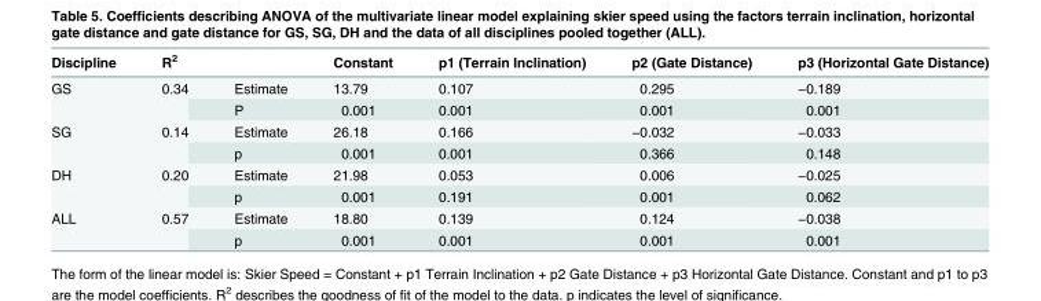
<table><thead><tr><td>Discipline</td><td>R<sup>2</sup></td><td></td><td>Constant</td><td>p1 (Terrain Inclination)</td><td>p2 (Gate Distance)</td><td>p3 (Horizontal Gate Distance)</td></tr></thead><tbody><tr><td rowspan="2">GS</td><td rowspan="2">0.34</td><td>Estimate</td><td>13.79</td><td>0.107</td><td>0.295</td><td>−0.189</td></tr><tr><td>P</td><td>0.001</td><td>0.001</td><td>0.001</td><td>0.001</td></tr><tr><td rowspan="2">SG</td><td rowspan="2">0.14</td><td>Estimate</td><td>26.18</td><td>0.166</td><td>−0.032</td><td>−0.033</td></tr><tr><td>p</td><td>0.001</td><td>0.001</td><td>0.366</td><td>0.148</td></tr><tr><td rowspan="2">DH</td><td rowspan="2">0.20</td><td>Estimate</td><td>21.98</td><td>0.053</td><td>0.006</td><td>−0.025</td></tr><tr><td>p</td><td>0.001</td><td>0.191</td><td>0.001</td><td>0.062</td></tr><tr><td rowspan="2">ALL</td><td rowspan="2">0.57</td><td>Estimate</td><td>18.80</td><td>0.139</td><td>0.124</td><td>−0.038</td></tr><tr><td>p</td><td>0.001</td><td>0.001</td><td>0.001</td><td>0.001</td></tr></tbody></table>